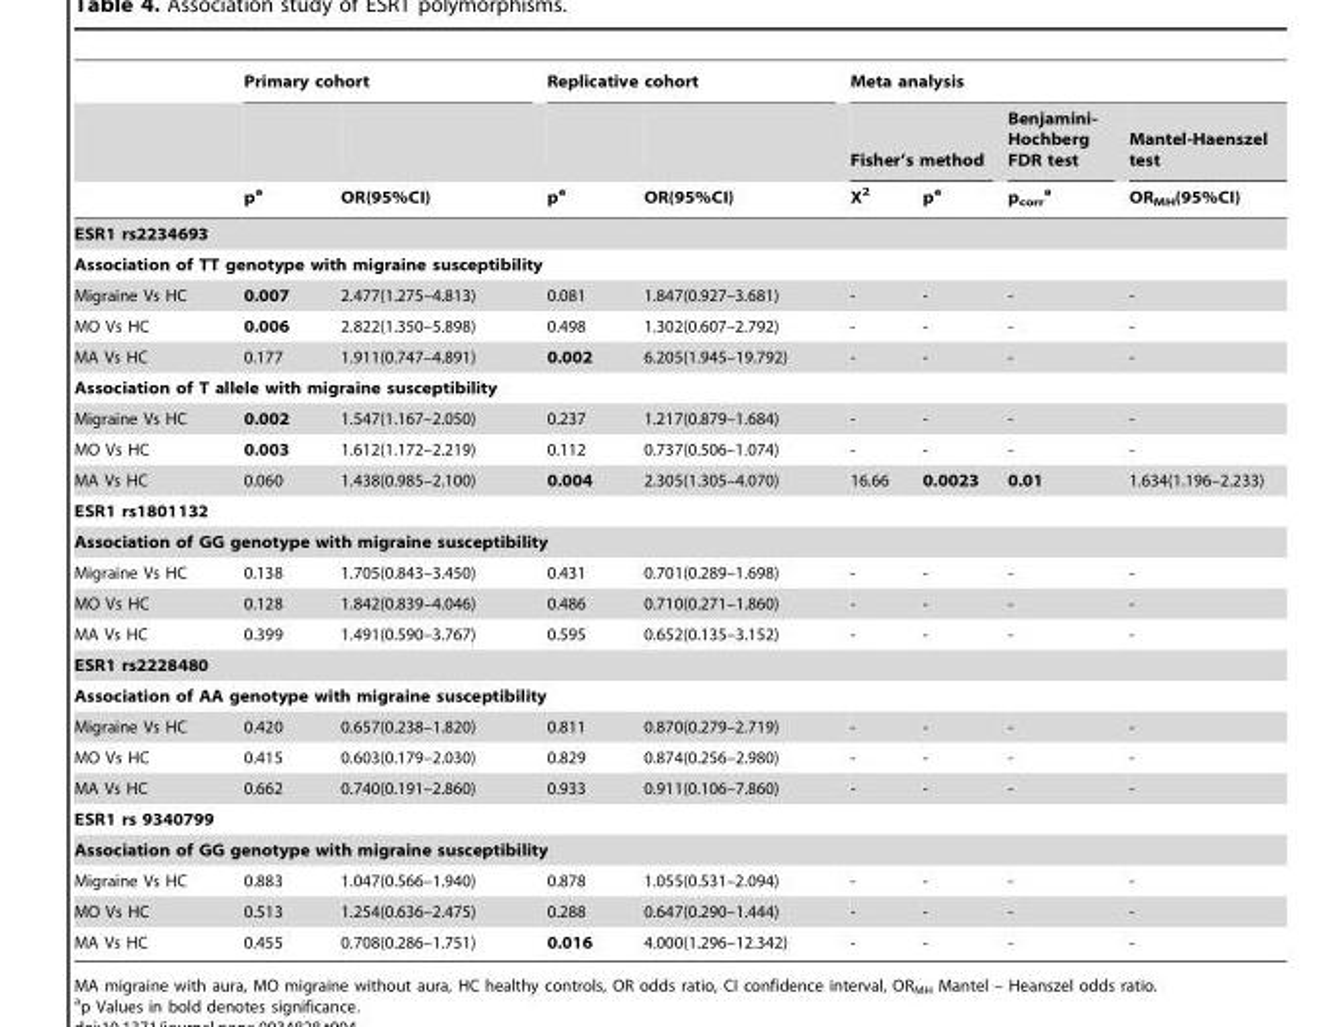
<table><thead><tr><td rowspan="3"></td><td colspan="2">Primary cohort</td><td colspan="2">Replicative cohort</td><td colspan="4">Meta analysis</td></tr><tr><td rowspan="2">p<sup>a</sup></td><td rowspan="2">OR(95%CI)</td><td rowspan="2">p<sup>a</sup></td><td rowspan="2">OR(95%CI)</td><td colspan="2">Fisher’s method</td><td rowspan="2">Benjamini- Hochberg FDR test p<sub>corr</sub> a</td><td rowspan="2">Mantel-Haenszel test OR<sub>MH</sub>(95%CI)</td></tr><tr><td>X<sup>2</sup></td><td>p<sup>a</sup></td></tr></thead><tbody><tr><td colspan="9">ESR1 rs2234693</td></tr><tr><td colspan="9">Association of TT genotype with migraine susceptibility</td></tr><tr><td>Migraine Vs HC</td><td>0.007</td><td>2.477(1.275–4.813)</td><td>0.081</td><td>1.847(0.927–3.681)</td><td>-</td><td>-</td><td>-</td><td>-</td></tr><tr><td>MO Vs HC</td><td>0.006</td><td>2.822(1.350–5.898)</td><td>0.498</td><td>1.302(0.607–2.792)</td><td>-</td><td>-</td><td>-</td><td>-</td></tr><tr><td>MA Vs HC</td><td>0.177</td><td>1.911(0.747–4.891)</td><td>0.002</td><td>6.205(1.945–19.792)</td><td>-</td><td>-</td><td>-</td><td>-</td></tr><tr><td colspan="9">Association of T allele with migraine susceptibility</td></tr><tr><td>Migraine Vs HC</td><td>0.002</td><td>1.547(1.167–2.050)</td><td>0.237</td><td>1.217(0.879–1.684)</td><td>-</td><td>-</td><td>-</td><td>-</td></tr><tr><td>MO Vs HC</td><td>0.003</td><td>1.612(1.172–2.219)</td><td>0.112</td><td>0.737(0.506–1.074)</td><td>-</td><td>-</td><td>-</td><td>-</td></tr><tr><td>MA Vs HC</td><td>0.060</td><td>1.438(0.985–2.100)</td><td>0.004</td><td>2.305(1.305–4.070)</td><td>16.66</td><td>0.0023</td><td>0.01</td><td>1.634(1.196–2.233)</td></tr><tr><td colspan="9">ESR1 rs1801132</td></tr><tr><td colspan="9">Association of GG genotype with migraine susceptibility</td></tr><tr><td>Migraine Vs HC</td><td>0.138</td><td>1.705(0.843–3.450)</td><td>0.431</td><td>0.701(0.289–1.698)</td><td>-</td><td>-</td><td>-</td><td>-</td></tr><tr><td>MO Vs HC</td><td>0.128</td><td>1.842(0.839–4.046)</td><td>0.486</td><td>0.710(0.271–1.860)</td><td>-</td><td>-</td><td>-</td><td>-</td></tr><tr><td>MA Vs HC</td><td>0.399</td><td>1.491(0.590–3.767)</td><td>0.595</td><td>0.652(0.135–3.152)</td><td>-</td><td>-</td><td>-</td><td>-</td></tr><tr><td colspan="9">ESR1 rs2228480</td></tr><tr><td colspan="9">Association of AA genotype with migraine susceptibility</td></tr><tr><td>Migraine Vs HC</td><td>0.420</td><td>0.657(0.238–1.820)</td><td>0.811</td><td>0.870(0.279–2.719)</td><td>-</td><td>-</td><td>-</td><td>-</td></tr><tr><td>MO Vs HC</td><td>0.415</td><td>0.603(0.179–2.030)</td><td>0.829</td><td>0.874(0.256–2.980)</td><td>-</td><td>-</td><td>-</td><td>-</td></tr><tr><td>MA Vs HC</td><td>0.662</td><td>0.740(0.191–2.860)</td><td>0.933</td><td>0.911(0.106–7.860)</td><td>-</td><td>-</td><td>-</td><td>-</td></tr><tr><td colspan="9">ESR1 rs 9340799</td></tr><tr><td colspan="9">Association of GG genotype with migraine susceptibility</td></tr><tr><td>Migraine Vs HC</td><td>0.883</td><td>1.047(0.566–1.940)</td><td>0.878</td><td>1.055(0.531–2.094)</td><td>-</td><td>-</td><td>-</td><td>-</td></tr><tr><td>MO Vs HC</td><td>0.513</td><td>1.254(0.636–2.475)</td><td>0.288</td><td>0.647(0.290–1.444)</td><td>-</td><td>-</td><td>-</td><td>-</td></tr><tr><td>MA Vs HC</td><td>0.455</td><td>0.708(0.286–1.751)</td><td>0.016</td><td>4.000(1.296–12.342)</td><td>-</td><td>-</td><td>-</td><td>-</td></tr></tbody></table>